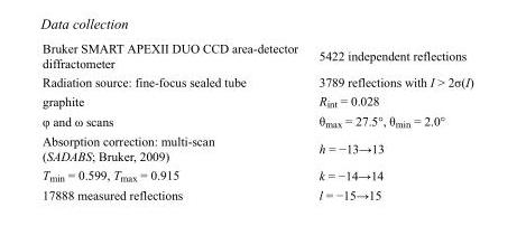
<table><tbody><tr><td>Bruker SMART APEXII DUO CCD area-detector diffractometer</td><td>5422 independent reflections</td></tr><tr><td>Radiation source: fine-focus sealed tube</td><td>3789 reflections with I &gt; 2σ(I)</td></tr><tr><td>graphite</td><td>R<sub>int</sub> = 0.028</td></tr><tr><td>φ and ω scans</td><td>θ<sub>max</sub> = 27.5°, θ<sub>min</sub> = 2.0°</td></tr><tr><td>Absorption correction: multi-scan (SADABS; Bruker, 2009)</td><td>h = −13→13</td></tr><tr><td>T<sub>min</sub> = 0.599, T<sub>max</sub> = 0.915</td><td>k = −14→14</td></tr><tr><td>17888 measured reflections</td><td>l = −15→15</td></tr></tbody></table>